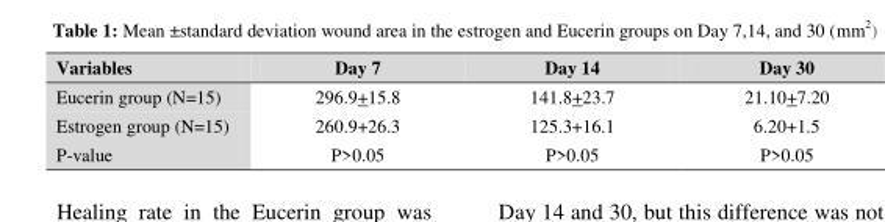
<table><thead><tr><td>Variables</td><td>Day 7</td><td>Day 14</td><td>Day 30</td></tr></thead><tbody><tr><td>Eucerin group (N=15)</td><td>296.9+15.8</td><td>141.8+23.7</td><td>21.10+7.20</td></tr><tr><td>Estrogen group (N=15)</td><td>260.9+26.3</td><td>125.3+16.1</td><td>6.20+1.5</td></tr><tr><td>P-value</td><td>P&gt;0.05</td><td>P&gt;0.05</td><td>P&gt;0.05</td></tr></tbody></table>